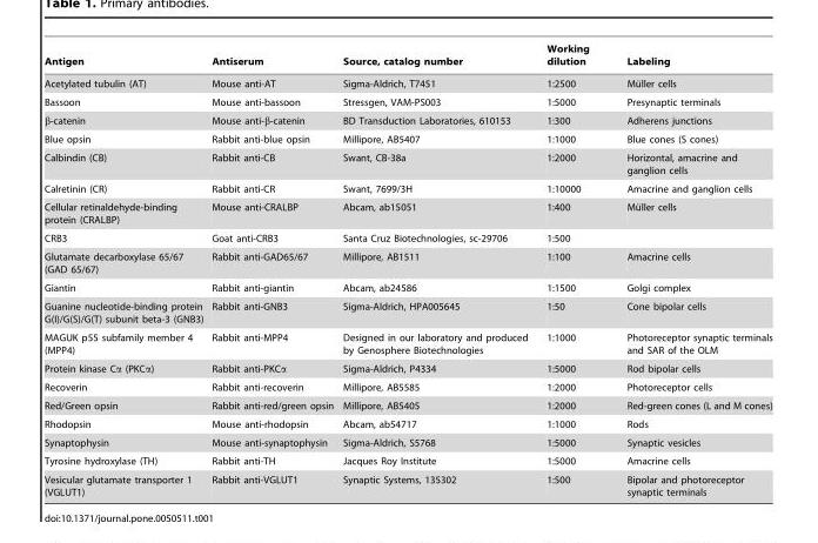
<table><thead><tr><td>Antigen</td><td>Antiserum</td><td>Source, catalog number</td><td>Working dilution</td><td>Labeling</td></tr></thead><tbody><tr><td>Acetylated tubulin (AT)</td><td>Mouse anti-AT</td><td>Sigma-Aldrich, T7451</td><td>1:2500</td><td>Mu¨ller cells</td></tr><tr><td>Bassoon</td><td>Mouse anti-bassoon</td><td>Stressgen, VAM-PS003</td><td>1:5000</td><td>Presynaptic terminals</td></tr><tr><td>β-catenin</td><td>Mouse anti-β-catenin</td><td>BD Transduction Laboratories, 610153</td><td>1:300</td><td>Adherens junctions</td></tr><tr><td>Blue opsin</td><td>Rabbit anti-blue opsin</td><td>Millipore, AB5407</td><td>1:1000</td><td>Blue cones (S cones)</td></tr><tr><td>Calbindin (CB)</td><td>Rabbit anti-CB</td><td>Swant, CB-38a</td><td>1:2000</td><td>Horizontal, amacrine and ganglion cells</td></tr><tr><td>Calretinin (CR)</td><td>Rabbit anti-CR</td><td>Swant, 7699/3H</td><td>1:10000</td><td>Amacrine and ganglion cells</td></tr><tr><td>Cellular retinaldehyde-binding protein (CRALBP)</td><td>Mouse anti-CRALBP</td><td>Abcam, ab15051</td><td>1:400</td><td>Mu¨ller cells</td></tr><tr><td>CRB3</td><td>Goat anti-CRB3</td><td>Santa Cruz Biotechnologies, sc-29706</td><td>1:500</td><td></td></tr><tr><td>Glutamate decarboxylase 65/67 (GAD 65/67)</td><td>Rabbit anti-GAD65/67</td><td>Millipore, AB1511</td><td>1:100</td><td>Amacrine cells</td></tr><tr><td>Giantin</td><td>Rabbit anti-giantin</td><td>Abcam, ab24586</td><td>1:1500</td><td>Golgi complex</td></tr><tr><td>Guanine nucleotide-binding protein G(I)/G(S)/G(T) subunit beta-3 (GNB3)</td><td>Rabbit anti-GNB3</td><td>Sigma-Aldrich, HPA005645</td><td>1:50</td><td>Cone bipolar cells</td></tr><tr><td>MAGUK p55 subfamily member 4 (MPP4)</td><td>Rabbit anti-MPP4</td><td>Designed in our laboratory and produced by Genosphere Biotechnologies</td><td>1:1000</td><td>Photoreceptor synaptic terminals and SAR of the OLM</td></tr><tr><td>Protein kinase Cα (PKCα)</td><td>Rabbit anti-PKCα</td><td>Sigma-Aldrich, P4334</td><td>1:5000</td><td>Rod bipolar cells</td></tr><tr><td>Recoverin</td><td>Rabbit anti-recoverin</td><td>Millipore, AB5585</td><td>1:2000</td><td>Photoreceptor cells</td></tr><tr><td>Red/Green opsin</td><td>Rabbit anti-red/green opsin</td><td>Millipore, AB5405</td><td>1:2000</td><td>Red-green cones (L and M cones)</td></tr><tr><td>Rhodopsin</td><td>Mouse anti-rhodopsin</td><td>Abcam, ab54717</td><td>1:1000</td><td>Rods</td></tr><tr><td>Synaptophysin</td><td>Mouse anti-synaptophysin</td><td>Sigma-Aldrich, S5768</td><td>1:5000</td><td>Synaptic vesicles</td></tr><tr><td>Tyrosine hydroxylase (TH)</td><td>Rabbit anti-TH</td><td>Jacques Roy Institute</td><td>1:5000</td><td>Amacrine cells</td></tr><tr><td>Vesicular glutamate transporter 1 (VGLUT1)</td><td>Rabbit anti-VGLUT1</td><td>Synaptic Systems, 135302</td><td>1:500</td><td>Bipolar and photoreceptor synaptic terminals</td></tr></tbody></table>